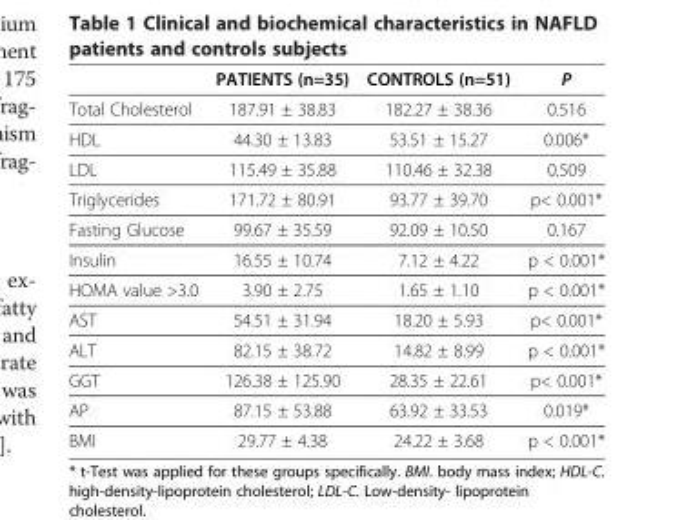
<table><thead><tr><td></td><td>PATIENTS (n=35)</td><td>CONTROLS (n=51)</td><td>P</td></tr></thead><tbody><tr><td>Total Cholesterol</td><td>187.91 ± 38.83</td><td>182.27 ± 38.36</td><td>0.516</td></tr><tr><td>HDL</td><td>44.30 ± 13.83</td><td>53.51 ± 15.27</td><td>0.006*</td></tr><tr><td>LDL</td><td>115.49 ± 35.88</td><td>110.46 ± 32.38</td><td>0.509</td></tr><tr><td>Triglycerides</td><td>171.72 ± 80.91</td><td>93.77 ± 39.70</td><td>p&lt; 0.001*</td></tr><tr><td>Fasting Glucose</td><td>99.67 ± 35.59</td><td>92.09 ± 10.50</td><td>0.167</td></tr><tr><td>Insulin</td><td>16.55 ± 10.74</td><td>7.12 ± 4.22</td><td>p &lt; 0.001*</td></tr><tr><td>HOMA value &gt;3.0</td><td>3.90 ± 2.75</td><td>1.65 ± 1.10</td><td>p &lt; 0.001*</td></tr><tr><td>AST</td><td>54.51 ± 31.94</td><td>18.20 ± 5.93</td><td>p&lt; 0.001*</td></tr><tr><td>ALT</td><td>82.15 ± 38.72</td><td>14.82 ± 8.99</td><td>p &lt; 0.001*</td></tr><tr><td>GGT</td><td>126.38 ± 125.90</td><td>28.35 ± 22.61</td><td>p&lt; 0.001*</td></tr><tr><td>AP</td><td>87.15 ± 53.88</td><td>63.92 ± 33.53</td><td>0.019*</td></tr><tr><td>BMI</td><td>29.77 ± 4.38</td><td>24.22 ± 3.68</td><td>p &lt; 0.001*</td></tr></tbody></table>